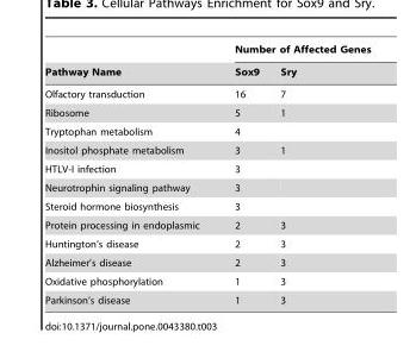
<table><thead><tr><td rowspan="2">Pathway Name</td><td colspan="2">Number of Affected Genes</td></tr><tr><td>Sox9</td><td>Sry</td></tr></thead><tbody><tr><td>Olfactory transduction</td><td>16</td><td>7</td></tr><tr><td>Ribosome</td><td>5</td><td>1</td></tr><tr><td>Tryptophan metabolism</td><td>4</td><td></td></tr><tr><td>Inositol phosphate metabolism</td><td>3</td><td>1</td></tr><tr><td>HTLV-I infection</td><td>3</td><td></td></tr><tr><td>Neurotrophin signaling pathway</td><td>3</td><td></td></tr><tr><td>Steroid hormone biosynthesis</td><td>3</td><td></td></tr><tr><td>Protein processing in endoplasmic</td><td>2</td><td>3</td></tr><tr><td>Huntington’s disease</td><td>2</td><td>3</td></tr><tr><td>Alzheimer’s disease</td><td>2</td><td>3</td></tr><tr><td>Oxidative phosphorylation</td><td>1</td><td>3</td></tr><tr><td>Parkinson’s disease</td><td>1</td><td>3</td></tr></tbody></table>